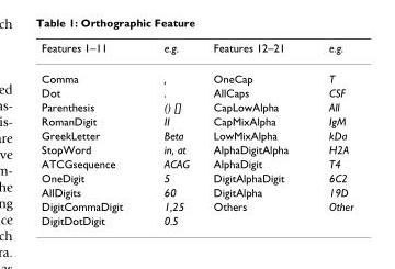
<table><thead><tr><td>Features 1–11</td><td>e.g.</td><td>Features 12–21</td><td>e.g.</td></tr></thead><tbody><tr><td>Comma</td><td>,</td><td>OneCap</td><td>T</td></tr><tr><td>Dot</td><td>.</td><td>AllCaps</td><td>CSF</td></tr><tr><td>Parenthesis</td><td>() []</td><td>CapLowAlpha</td><td>All</td></tr><tr><td>RomanDigit</td><td>II</td><td>CapMixAlpha</td><td>IgM</td></tr><tr><td>GreekLetter</td><td>Beta</td><td>LowMixAlpha</td><td>kDa</td></tr><tr><td>StopWord</td><td>in, at</td><td>AlphaDigitAlpha</td><td>H2A</td></tr><tr><td>ATCGsequence</td><td>ACAG</td><td>AlphaDigit</td><td>T4</td></tr><tr><td>OneDigit</td><td>5</td><td>DigitAlphaDigit</td><td>6C2</td></tr><tr><td>AllDigits</td><td>60</td><td>DigitAlpha</td><td>19D</td></tr><tr><td>DigitCommaDigit</td><td>1,25</td><td>Others</td><td>Other</td></tr><tr><td>DigitDotDigit</td><td>0.5</td><td></td><td></td></tr></tbody></table>